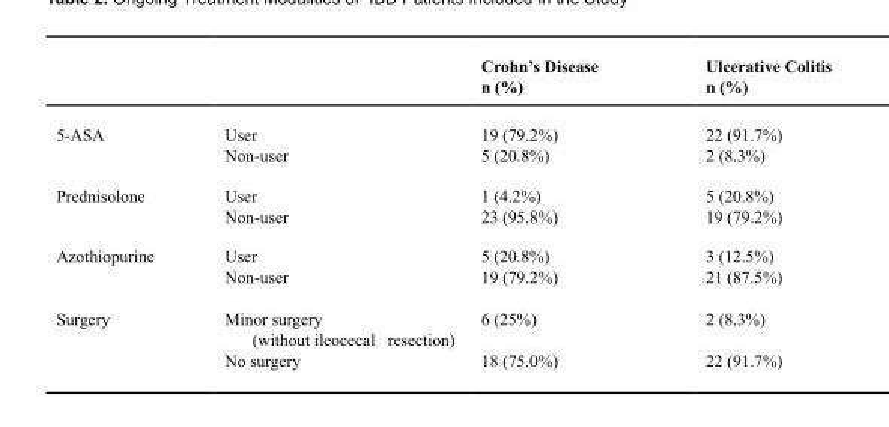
<table><thead><tr><td></td><td></td><td>Crohn’s Disease n (%)</td><td>Ulcerative Colitis n (%)</td></tr></thead><tbody><tr><td rowspan="2">5-ASA</td><td>User</td><td>19 (79.2%)</td><td>22 (91.7%)</td></tr><tr><td>Non-user</td><td>5 (20.8%)</td><td>2 (8.3%)</td></tr><tr><td rowspan="2">Prednisolone</td><td>User</td><td>1 (4.2%)</td><td>5 (20.8%)</td></tr><tr><td>Non-user</td><td>23 (95.8%)</td><td>19 (79.2%)</td></tr><tr><td rowspan="2">Azothiopurine</td><td>User</td><td>5 (20.8%)</td><td>3 (12.5%)</td></tr><tr><td>Non-user</td><td>19 (79.2%)</td><td>21 (87.5%)</td></tr><tr><td rowspan="2">Surgery</td><td>Minor surgery (without ileocecal resection)</td><td>6 (25%)</td><td>2 (8.3%)</td></tr><tr><td>No surgery</td><td>18 (75.0%)</td><td>22 (91.7%)</td></tr></tbody></table>